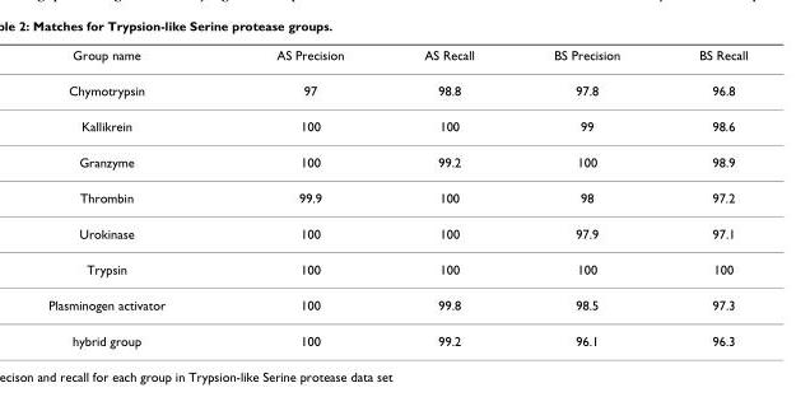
<table><thead><tr><td>Group name</td><td>AS Precision</td><td>AS Recall</td><td>BS Precision</td><td>BS Recall</td></tr></thead><tbody><tr><td>Chymotrypsin</td><td>97</td><td>98.8</td><td>97.8</td><td>96.8</td></tr><tr><td>Kallikrein</td><td>100</td><td>100</td><td>99</td><td>98.6</td></tr><tr><td>Granzyme</td><td>100</td><td>99.2</td><td>100</td><td>98.9</td></tr><tr><td>Thrombin</td><td>99.9</td><td>100</td><td>98</td><td>97.2</td></tr><tr><td>Urokinase</td><td>100</td><td>100</td><td>97.9</td><td>97.1</td></tr><tr><td>Trypsin</td><td>100</td><td>100</td><td>100</td><td>100</td></tr><tr><td>Plasminogen activator</td><td>100</td><td>99.8</td><td>98.5</td><td>97.3</td></tr><tr><td>hybrid group</td><td>100</td><td>99.2</td><td>96.1</td><td>96.3</td></tr></tbody></table>